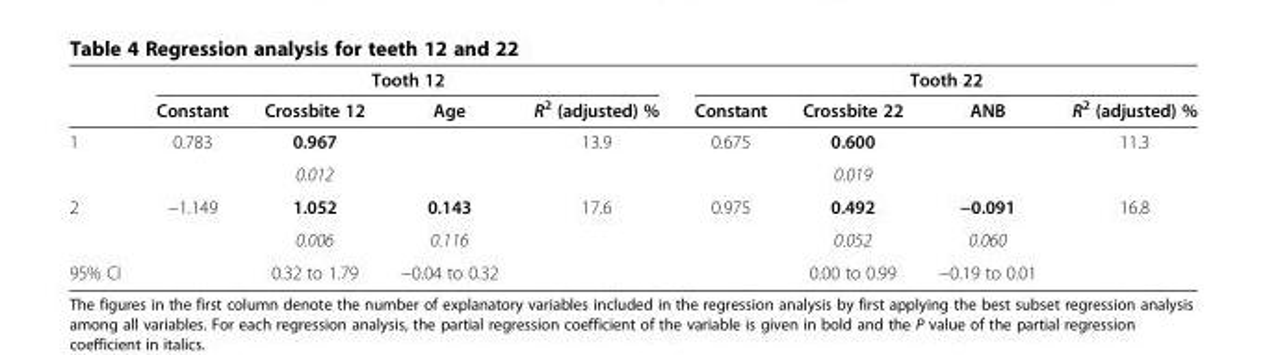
<table><thead><tr><td rowspan="2"></td><td colspan="4">Tooth 12</td><td colspan="4">Tooth 22</td></tr><tr><td>Constant</td><td>Crossbite 12</td><td>Age</td><td>R<sup>2</sup> (adjusted) %</td><td>Constant</td><td>Crossbite 22</td><td>ANB</td><td>R<sup>2</sup> (adjusted) %</td></tr></thead><tbody><tr><td rowspan="2">1</td><td rowspan="2">0.783</td><td>0.967</td><td rowspan="2"></td><td rowspan="2">13.9</td><td rowspan="2">0.675</td><td>0.600</td><td rowspan="2"></td><td rowspan="2">11.3</td></tr><tr><td>0.012</td><td>0.019</td></tr><tr><td rowspan="2">2</td><td rowspan="2">−1.149</td><td>1.052</td><td>0.143</td><td rowspan="2">17.6</td><td rowspan="2">0.975</td><td>0.492</td><td>−0.091</td><td>16.8</td></tr><tr><td>0.006</td><td>0.116</td><td>0.052</td><td>0.060</td><td></td></tr><tr><td>95% CI</td><td></td><td>0.32 to 1.79</td><td>−0.04 to 0.32</td><td></td><td></td><td>0.00 to 0.99</td><td>−0.19 to 0.01</td><td></td></tr></tbody></table>